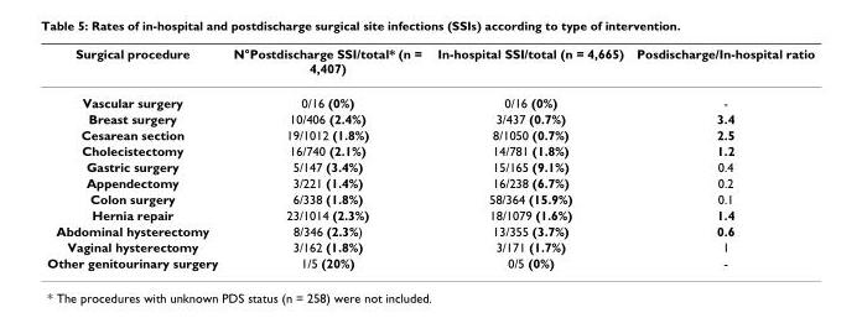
<table><thead><tr><td>Surgical procedure</td><td>N°Postdischarge SSI/total* (n = 4,407)</td><td>In-hospital SSI/total (n = 4,665)</td><td>Posdischarge/In-hospital ratio</td></tr></thead><tbody><tr><td>Vascular surgery</td><td>0/16 (0%)</td><td>0/16 (0%)</td><td>-</td></tr><tr><td>Breast surgery</td><td>10/406 (2.4%)</td><td>3/437 (0.7%)</td><td>3.4</td></tr><tr><td>Cesarean section</td><td>19/1012 (1.8%)</td><td>8/1050 (0.7%)</td><td>2.5</td></tr><tr><td>Cholecistectomy</td><td>16/740 (2.1%)</td><td>14/781 (1.8%)</td><td>1.2</td></tr><tr><td>Gastric surgery</td><td>5/147 (3.4%)</td><td>15/165 (9.1%)</td><td>0.4</td></tr><tr><td>Appendectomy</td><td>3/221 (1.4%)</td><td>16/238 (6.7%)</td><td>0.2</td></tr><tr><td>Colon surgery</td><td>6/338 (1.8%)</td><td>58/364 (15.9%)</td><td>0.1</td></tr><tr><td>Hernia repair</td><td>23/1014 (2.3%)</td><td>18/1079 (1.6%)</td><td>1.4</td></tr><tr><td>Abdominal hysterectomy</td><td>8/346 (2.3%)</td><td>13/355 (3.7%)</td><td>0.6</td></tr><tr><td>Vaginal hysterectomy</td><td>3/162 (1.8%)</td><td>3/171 (1.7%)</td><td>1</td></tr><tr><td>Other genitourinary surgery</td><td>1/5 (20%)</td><td>0/5 (0%)</td><td>-</td></tr></tbody></table>